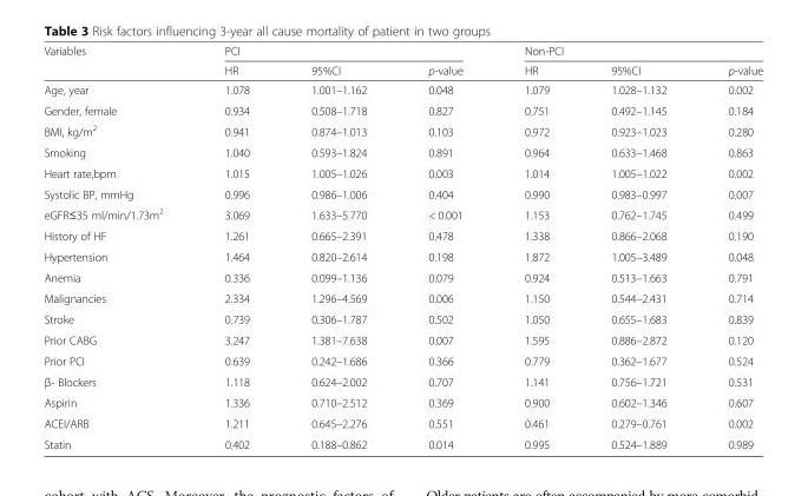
<table><thead><tr><td rowspan="2">Variables</td><td colspan="3">PCI</td><td colspan="3">Non-PCI</td></tr><tr><td>HR</td><td>95%CI</td><td>p-value</td><td>HR</td><td>95%CI</td><td>p-value</td></tr></thead><tbody><tr><td>Age, year</td><td>1.078</td><td>1.001–1.162</td><td>0.048</td><td>1.079</td><td>1.028–1.132</td><td>0.002</td></tr><tr><td>Gender, female</td><td>0.934</td><td>0.508–1.718</td><td>0.827</td><td>0.751</td><td>0.492–1.145</td><td>0.184</td></tr><tr><td>BMI, kg/m<sup>2</sup></td><td>0.941</td><td>0.874–1.013</td><td>0.103</td><td>0.972</td><td>0.923–1.023</td><td>0.280</td></tr><tr><td>Smoking</td><td>1.040</td><td>0.593–1.824</td><td>0.891</td><td>0.964</td><td>0.633–1.468</td><td>0.863</td></tr><tr><td>Heart rate,bpm</td><td>1.015</td><td>1.005–1.026</td><td>0.003</td><td>1.014</td><td>1.005–1.022</td><td>0.002</td></tr><tr><td>Systolic BP, mmHg</td><td>0.996</td><td>0.986–1.006</td><td>0.404</td><td>0.990</td><td>0.983–0.997</td><td>0.007</td></tr><tr><td>eGFR≤35 ml/min/1.73m<sup>2</sup></td><td>3.069</td><td>1.633–5.770</td><td>&lt; 0.001</td><td>1.153</td><td>0.762–1.745</td><td>0.499</td></tr><tr><td>History of HF</td><td>1.261</td><td>0.665–2.391</td><td>0.478</td><td>1.338</td><td>0.866–2.068</td><td>0.190</td></tr><tr><td>Hypertension</td><td>1.464</td><td>0.820–2.614</td><td>0.198</td><td>1.872</td><td>1.005–3.489</td><td>0.048</td></tr><tr><td>Anemia</td><td>0.336</td><td>0.099–1.136</td><td>0.079</td><td>0.924</td><td>0.513–1.663</td><td>0.791</td></tr><tr><td>Malignancies</td><td>2.334</td><td>1.296–4.569</td><td>0.006</td><td>1.150</td><td>0.544–2.431</td><td>0.714</td></tr><tr><td>Stroke</td><td>0.739</td><td>0.306–1.787</td><td>0.502</td><td>1.050</td><td>0.655–1.683</td><td>0.839</td></tr><tr><td>Prior CABG</td><td>3.247</td><td>1.381–7.638</td><td>0.007</td><td>1.595</td><td>0.886–2.872</td><td>0.120</td></tr><tr><td>Prior PCI</td><td>0.639</td><td>0.242–1.686</td><td>0.366</td><td>0.779</td><td>0.362–1.677</td><td>0.524</td></tr><tr><td>β- Blockers</td><td>1.118</td><td>0.624–2.002</td><td>0.707</td><td>1.141</td><td>0.756–1.721</td><td>0.531</td></tr><tr><td>Aspirin</td><td>1.336</td><td>0.710–2.512</td><td>0.369</td><td>0.900</td><td>0.602–1.346</td><td>0.607</td></tr><tr><td>ACEI/ARB</td><td>1.211</td><td>0.645–2.276</td><td>0.551</td><td>0.461</td><td>0.279–0.761</td><td>0.002</td></tr><tr><td>Statin</td><td>0.402</td><td>0.188–0.862</td><td>0.014</td><td>0.995</td><td>0.524–1.889</td><td>0.989</td></tr></tbody></table>